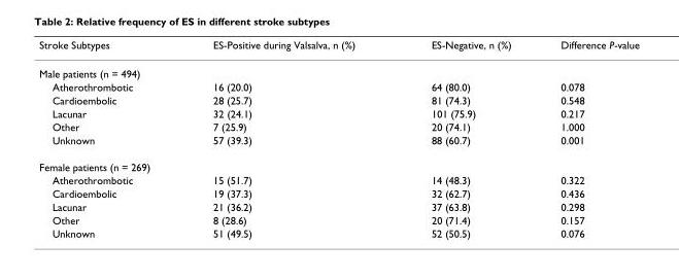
<table><thead><tr><td>Stroke Subtypes</td><td>ES-Positive during Valsalva, n (%)</td><td>ES-Negative, n (%)</td><td>Difference P-value</td></tr></thead><tbody><tr><td colspan="4">Male patients (n = 494)</td></tr><tr><td>Atherothrombotic</td><td>16 (20.0)</td><td>64 (80.0)</td><td>0.078</td></tr><tr><td>Cardioembolic</td><td>28 (25.7)</td><td>81 (74.3)</td><td>0.548</td></tr><tr><td>Lacunar</td><td>32 (24.1)</td><td>101 (75.9)</td><td>0.217</td></tr><tr><td>Other</td><td>7 (25.9)</td><td>20 (74.1)</td><td>1.000</td></tr><tr><td>Unknown</td><td>57 (39.3)</td><td>88 (60.7)</td><td>0.001</td></tr><tr><td colspan="4">Female patients (n = 269)</td></tr><tr><td>Atherothrombotic</td><td>15 (51.7)</td><td>14 (48.3)</td><td>0.322</td></tr><tr><td>Cardioembolic</td><td>19 (37.3)</td><td>32 (62.7)</td><td>0.436</td></tr><tr><td>Lacunar</td><td>21 (36.2)</td><td>37 (63.8)</td><td>0.298</td></tr><tr><td>Other</td><td>8 (28.6)</td><td>20 (71.4)</td><td>0.157</td></tr><tr><td>Unknown</td><td>51 (49.5)</td><td>52 (50.5)</td><td>0.076</td></tr></tbody></table>